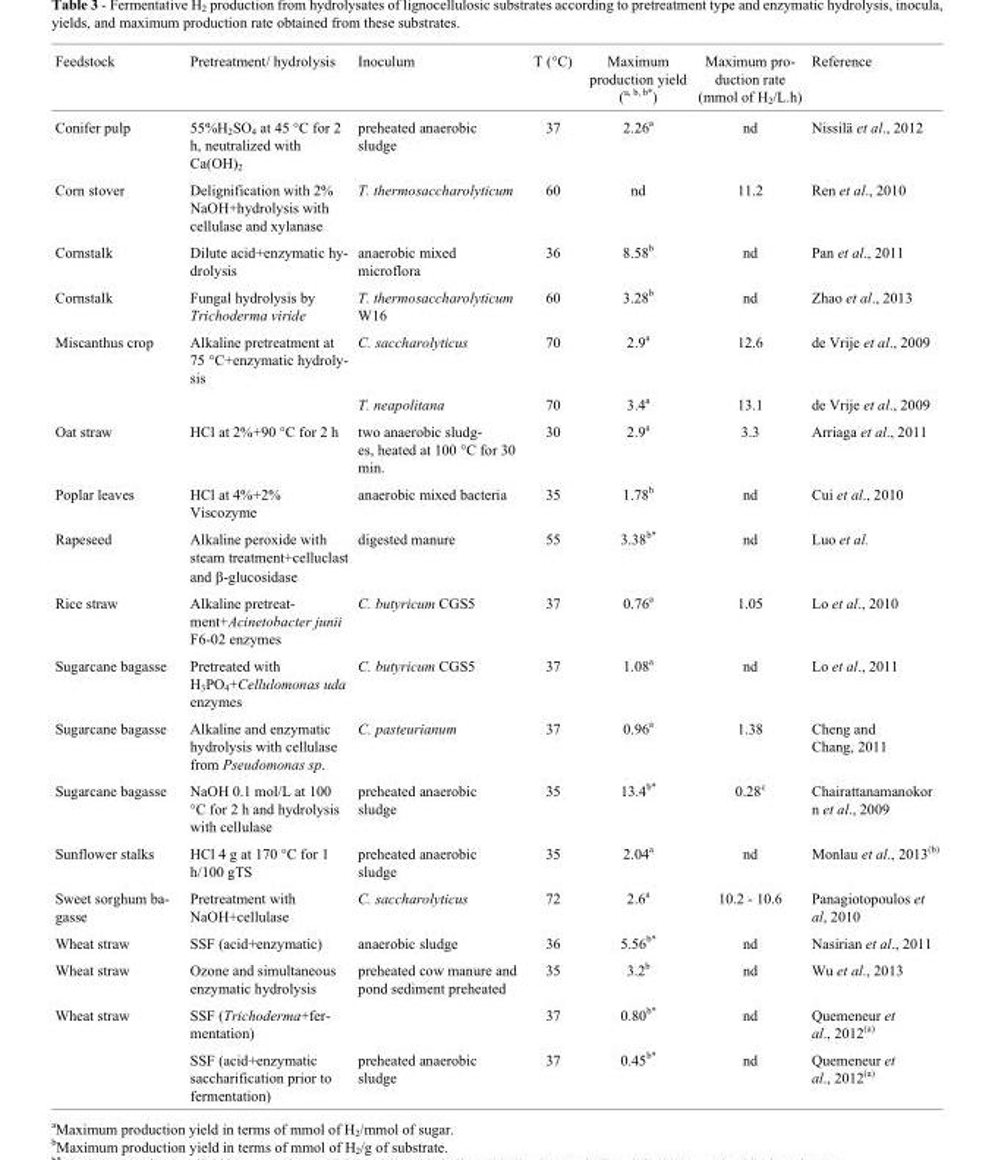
<table><thead><tr><td>Feedstock</td><td>Pretreatment/ hydrolysis</td><td>Inoculum</td><td>T (°C)</td><td>Maximum production yield (a, b, b*)</td><td>Maximum pro- duction rate (mmol of H2/L.h)</td><td>Reference</td></tr></thead><tbody><tr><td>Conifer pulp</td><td>55%H<sub>2</sub>SO<sub>4</sub> at 45 °C for 2 h, neutralized with Ca(OH)<sub>2</sub></td><td>preheated anaerobic sludge</td><td>37</td><td>2.26<sup>a</sup></td><td>nd</td><td>Nissilä et al., 2012</td></tr><tr><td>Corn stover</td><td>Delignification with 2% NaOH+hydrolysis with cellulase and xylanase</td><td>T. thermosaccharolyticum</td><td>60</td><td>nd</td><td>11.2</td><td>Ren et al., 2010</td></tr><tr><td>Cornstalk</td><td>Dilute acid+enzymatic hy- drolysis</td><td>anaerobic mixed microflora</td><td>36</td><td>8.58<sup>b</sup></td><td>nd</td><td>Pan et al., 2011</td></tr><tr><td>Cornstalk</td><td>Fungal hydrolysis by Trichoderma viride</td><td>T. thermosaccharolyticum W16</td><td>60</td><td>3.28<sup>b</sup></td><td>nd</td><td>Zhao et al., 2013</td></tr><tr><td rowspan="2">Miscanthus crop</td><td>Alkaline pretreatment at 75 °C+enzymatic hydroly- sis</td><td>C. saccharolyticus</td><td>70</td><td>2.9<sup>a</sup></td><td>12.6</td><td>de Vrije et al., 2009</td></tr><tr><td></td><td>T. neapolitana</td><td>70</td><td>3.4<sup>a</sup></td><td>13.1</td><td>de Vrije et al., 2009</td></tr><tr><td>Oat straw</td><td>HCl at 2%+90 °C for 2 h</td><td>two anaerobic sludg- es, heated at 100 °C for 30 min.</td><td>30</td><td>2.9<sup>a</sup></td><td>3.3</td><td>Arriaga et al., 2011</td></tr><tr><td>Poplar leaves</td><td>HCl at 4%+2% Viscozyme</td><td>anaerobic mixed bacteria</td><td>35</td><td>1.78<sup>b</sup></td><td>nd</td><td>Cui et al., 2010</td></tr><tr><td>Rapeseed</td><td>Alkaline peroxide with steam treatment+celluclast and β-glucosidase</td><td>digested manure</td><td>55</td><td>3.38b*</td><td>nd</td><td>Luo et al.</td></tr><tr><td>Rice straw</td><td>Alkaline pretreat- ment+Acinetobacter junii F6-02 enzymes</td><td>C. butyricum CGS5</td><td>37</td><td>0.76<sup>a</sup></td><td>1.05</td><td>Lo et al., 2010</td></tr><tr><td>Sugarcane bagasse</td><td>Pretreated with H<sub>3</sub>PO<sub>4</sub>+Cellulomonas uda enzymes</td><td>C. butyricum CGS5</td><td>37</td><td>1.08<sup>a</sup></td><td>nd</td><td>Lo et al., 2011</td></tr><tr><td>Sugarcane bagasse</td><td>Alkaline and enzymatic hydrolysis with cellulase from Pseudomonas sp.</td><td>C. pasteurianum</td><td>37</td><td>0.96<sup>a</sup></td><td>1.38</td><td>Cheng and Chang, 2011</td></tr><tr><td>Sugarcane bagasse</td><td>NaOH 0.1 mol/L at 100 °C for 2 h and hydrolysis with cellulase</td><td>preheated anaerobic sludge</td><td>35</td><td>13.4b*</td><td>0.28<sup>c</sup></td><td>Chairattanamanokor n et al., 2009</td></tr><tr><td>Sunflower stalks</td><td>HCl 4 g at 170 °C for 1 h/100 gTS</td><td>preheated anaerobic sludge</td><td>35</td><td>2.04<sup>a</sup></td><td>nd</td><td>Monlau et al., 2013(b)</td></tr><tr><td>Sweet sorghum ba- gasse</td><td>Pretreatment with NaOH+cellulase</td><td>C. saccharolyticus</td><td>72</td><td>2.6<sup>a</sup></td><td>10.2 - 10.6</td><td>Panagiotopoulos et al, 2010</td></tr><tr><td>Wheat straw</td><td>SSF (acid+enzymatic)</td><td>anaerobic sludge</td><td>36</td><td>5.56b*</td><td>nd</td><td>Nasirian et al., 2011</td></tr><tr><td>Wheat straw</td><td>Ozone and simultaneous enzymatic hydrolysis</td><td>preheated cow manure and pond sediment preheated</td><td>35</td><td>3.2<sup>b</sup></td><td>nd</td><td>Wu et al., 2013</td></tr><tr><td rowspan="2">Wheat straw</td><td>SSF (Trichoderma+fer- mentation)</td><td></td><td>37</td><td>0.80b*</td><td>nd</td><td>Quemeneur et al., 2012(a)</td></tr><tr><td>SSF (acid+enzymatic saccharification prior to fermentation)</td><td>preheated anaerobic sludge</td><td>37</td><td>0.45b*</td><td>nd</td><td>Quemeneur et al., 2012(a)</td></tr></tbody></table>